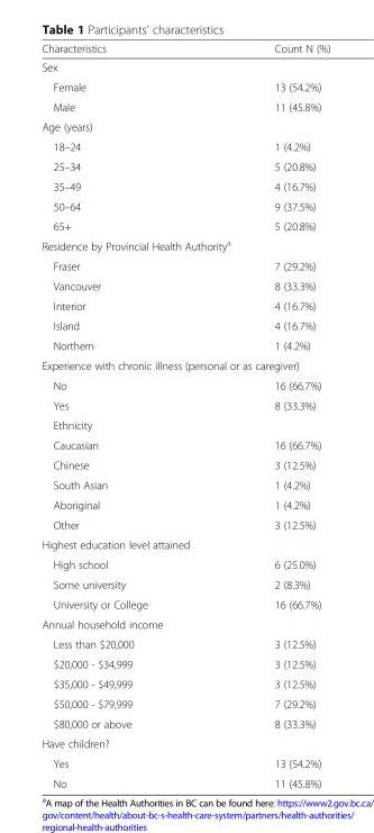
<table><thead><tr><td>Characteristics</td><td>Count N (%)</td></tr></thead><tbody><tr><td colspan="2">Sex</td></tr><tr><td>Female</td><td>13 (54.2%)</td></tr><tr><td>Male</td><td>11 (45.8%)</td></tr><tr><td colspan="2">Age (years)</td></tr><tr><td>18–24</td><td>1 (4.2%)</td></tr><tr><td>25–34</td><td>5 (20.8%)</td></tr><tr><td>35–49</td><td>4 (16.7%)</td></tr><tr><td>50–64</td><td>9 (37.5%)</td></tr><tr><td>65+</td><td>5 (20.8%)</td></tr><tr><td colspan="2">Residence by Provincial Health Authority<sup>a</sup></td></tr><tr><td>Fraser</td><td>7 (29.2%)</td></tr><tr><td>Vancouver</td><td>8 (33.3%)</td></tr><tr><td>Interior</td><td>4 (16.7%)</td></tr><tr><td>Island</td><td>4 (16.7%)</td></tr><tr><td>Northern</td><td>1 (4.2%)</td></tr><tr><td colspan="2">Experience with chronic illness (personal or as caregiver)</td></tr><tr><td>No</td><td>16 (66.7%)</td></tr><tr><td>Yes</td><td>8 (33.3%)</td></tr><tr><td colspan="2">Ethnicity</td></tr><tr><td>Caucasian</td><td>16 (66.7%)</td></tr><tr><td>Chinese</td><td>3 (12.5%)</td></tr><tr><td>South Asian</td><td>1 (4.2%)</td></tr><tr><td>Aboriginal</td><td>1 (4.2%)</td></tr><tr><td>Other</td><td>3 (12.5%)</td></tr><tr><td colspan="2">Highest education level attained</td></tr><tr><td>High school</td><td>6 (25.0%)</td></tr><tr><td>Some university</td><td>2 (8.3%)</td></tr><tr><td>University or College</td><td>16 (66.7%)</td></tr><tr><td colspan="2">Annual household income</td></tr><tr><td>Less than $20,000</td><td>3 (12.5%)</td></tr><tr><td>$20,000 - $34,999</td><td>3 (12.5%)</td></tr><tr><td>$35,000 - $49,999</td><td>3 (12.5%)</td></tr><tr><td>$50,000 - $79,999</td><td>7 (29.2%)</td></tr><tr><td>$80,000 or above</td><td>8 (33.3%)</td></tr><tr><td colspan="2">Have children?</td></tr><tr><td>Yes</td><td>13 (54.2%)</td></tr><tr><td>No</td><td>11 (45.8%)</td></tr></tbody></table>